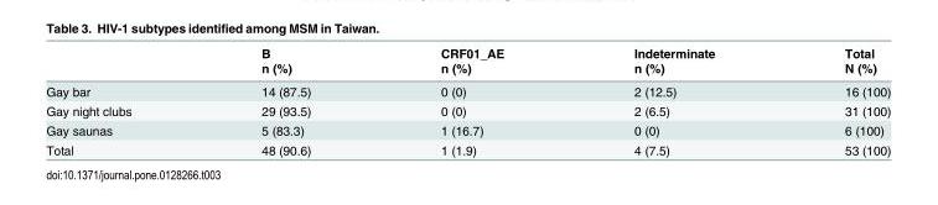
<table><thead><tr><td rowspan="2"></td><td rowspan="2">B n (%)</td><td rowspan="2">CRF01_AE n (%)</td><td rowspan="2">Indeterminate n (%)</td><td rowspan="2">Total N (%)</td></tr><tr></tr></thead><tbody><tr><td>Gay bar</td><td>14 (87.5)</td><td>0 (0)</td><td>2 (12.5)</td><td>16 (100)</td></tr><tr><td>Gay night clubs</td><td>29 (93.5)</td><td>0 (0)</td><td>2 (6.5)</td><td>31 (100)</td></tr><tr><td>Gay saunas</td><td>5 (83.3)</td><td>1 (16.7)</td><td>0 (0)</td><td>6 (100)</td></tr><tr><td>Total</td><td>48 (90.6)</td><td>1 (1.9)</td><td>4 (7.5)</td><td>53 (100)</td></tr></tbody></table>